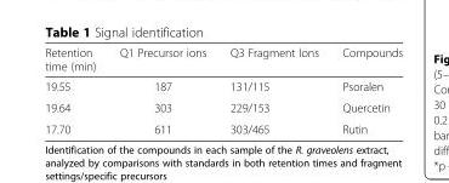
<table><thead><tr><td>Retention time (min)</td><td>Q1 Precursor ions</td><td>Q3 Fragment Ions</td><td>Compounds</td></tr></thead><tbody><tr><td>19.55</td><td>187</td><td>131/115</td><td>Psoralen</td></tr><tr><td>19.64</td><td>303</td><td>229/153</td><td>Quercetin</td></tr><tr><td>17.70</td><td>611</td><td>303/465</td><td>Rutin</td></tr></tbody></table>